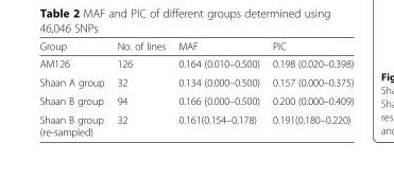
<table><thead><tr><td>Group</td><td>No. of lines</td><td>MAF</td><td>PIC</td></tr></thead><tbody><tr><td>AM126</td><td>126</td><td>0.164 (0.010–0.500)</td><td>0.198 (0.020–0.398)</td></tr><tr><td>Shaan A group</td><td>32</td><td>0.134 (0.000–0.500)</td><td>0.157 (0.000–0.375)</td></tr><tr><td>Shaan B group</td><td>94</td><td>0.166 (0.000–0.500)</td><td>0.200 (0.000–0.409)</td></tr><tr><td>Shaan B group (re-sampled)</td><td>32</td><td>0.161(0.154–0.178)</td><td>0.191(0.180–0.220)</td></tr></tbody></table>